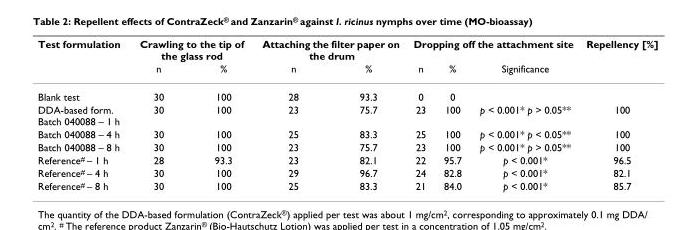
<table><thead><tr><td rowspan="2">Test formulation</td><td colspan="2">Crawling to the tip of the glass rod</td><td colspan="2">Attaching the filter paper on the drum</td><td colspan="3">Dropping off the attachment site</td><td rowspan="2">Repellency [%]</td></tr><tr><td>n</td><td>%</td><td>n</td><td>%</td><td>n</td><td>%</td><td>Significance</td></tr></thead><tbody><tr><td>Blank test</td><td>30</td><td>100</td><td>28</td><td>93.3</td><td>0</td><td>0</td><td></td><td></td></tr><tr><td>DDA-based form. Batch 040088 – 1 h</td><td>30</td><td>100</td><td>23</td><td>75.7</td><td>23</td><td>100</td><td>p &lt; 0.001* p &gt; 0.05**</td><td>100</td></tr><tr><td>Batch 040088 – 4 h</td><td>30</td><td>100</td><td>25</td><td>83.3</td><td>25</td><td>100</td><td>p &lt; 0.001* p &lt; 0.05**</td><td>100</td></tr><tr><td>Batch 040088 – 8 h</td><td>30</td><td>100</td><td>23</td><td>75.7</td><td>23</td><td>100</td><td>p &lt; 0.001* p &gt; 0.05**</td><td>100</td></tr><tr><td>Reference<sup>#</sup> – 1 h</td><td>28</td><td>93.3</td><td>23</td><td>82.1</td><td>22</td><td>95.7</td><td>p &lt; 0.001*</td><td>96.5</td></tr><tr><td>Reference<sup>#</sup> – 4 h</td><td>30</td><td>100</td><td>29</td><td>96.7</td><td>24</td><td>82.8</td><td>p &lt; 0.001*</td><td>82.1</td></tr><tr><td>Reference<sup>#</sup> – 8 h</td><td>30</td><td>100</td><td>25</td><td>83.3</td><td>21</td><td>84.0</td><td>p &lt; 0.001*</td><td>85.7</td></tr></tbody></table>